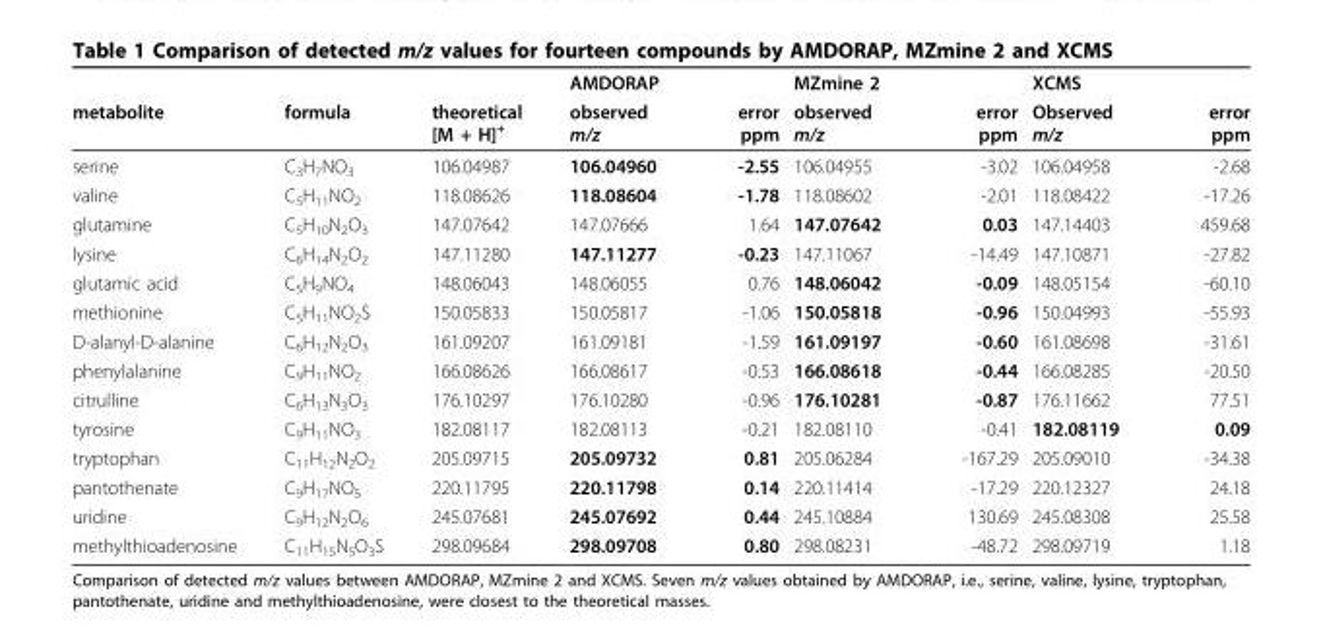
<table><thead><tr><td rowspan="2">metabolite</td><td rowspan="2">formula</td><td rowspan="2">theoretical [M + H]<sup>+</sup></td><td colspan="2">AMDORAP</td><td colspan="2">MZmine 2</td><td colspan="2">XCMS</td></tr><tr><td>observed m/z</td><td>error ppm</td><td>observed m/z</td><td>error ppm</td><td>Observed m/z</td><td>error ppm</td></tr></thead><tbody><tr><td>serine</td><td>C<sub>3</sub>H<sub>7</sub>NO<sub>3</sub></td><td>106.04987</td><td>106.04960</td><td>-2.55</td><td>106.04955</td><td>-3.02</td><td>106.04958</td><td>-2.68</td></tr><tr><td>valine</td><td>C<sub>5</sub>H<sub>11</sub>NO<sub>2</sub></td><td>118.08626</td><td>118.08604</td><td>-1.78</td><td>118.08602</td><td>-2.01</td><td>118.08422</td><td>-17.26</td></tr><tr><td>glutamine</td><td>C<sub>5</sub>H<sub>10</sub>N<sub>2</sub>O<sub>3</sub></td><td>147.07642</td><td>147.07666</td><td>1.64</td><td>147.07642</td><td>0.03</td><td>147.14403</td><td>459.68</td></tr><tr><td>lysine</td><td>C<sub>6</sub>H<sub>14</sub>N<sub>2</sub>O<sub>2</sub></td><td>147.11280</td><td>147.11277</td><td>-0.23</td><td>147.11067</td><td>-14.49</td><td>147.10871</td><td>-27.82</td></tr><tr><td>glutamic acid</td><td>C<sub>5</sub>H<sub>9</sub>NO<sub>4</sub></td><td>148.06043</td><td>148.06055</td><td>0.76</td><td>148.06042</td><td>-0.09</td><td>148.05154</td><td>-60.10</td></tr><tr><td>methionine</td><td>C<sub>5</sub>H<sub>11</sub>NO<sub>2</sub>S</td><td>150.05833</td><td>150.05817</td><td>-1.06</td><td>150.05818</td><td>-0.96</td><td>150.04993</td><td>-55.93</td></tr><tr><td>D-alanyl-D-alanine</td><td>C<sub>6</sub>H<sub>12</sub>N<sub>2</sub>O<sub>3</sub></td><td>161.09207</td><td>161.09181</td><td>-1.59</td><td>161.09197</td><td>-0.60</td><td>161.08698</td><td>-31.61</td></tr><tr><td>phenylalanine</td><td>C<sub>9</sub>H<sub>11</sub>NO<sub>2</sub></td><td>166.08626</td><td>166.08617</td><td>-0.53</td><td>166.08618</td><td>-0.44</td><td>166.08285</td><td>-20.50</td></tr><tr><td>citrulline</td><td>C<sub>6</sub>H<sub>13</sub>N<sub>3</sub>O<sub>3</sub></td><td>176.10297</td><td>176.10280</td><td>-0.96</td><td>176.10281</td><td>-0.87</td><td>176.11662</td><td>77.51</td></tr><tr><td>tyrosine</td><td>C<sub>9</sub>H<sub>11</sub>NO<sub>3</sub></td><td>182.08117</td><td>182.08113</td><td>-0.21</td><td>182.08110</td><td>-0.41</td><td>182.08119</td><td>0.09</td></tr><tr><td>tryptophan</td><td>C<sub>11</sub>H<sub>12</sub>N<sub>2</sub>O<sub>2</sub></td><td>205.09715</td><td>205.09732</td><td>0.81</td><td>205.06284</td><td>-167.29</td><td>205.09010</td><td>-34.38</td></tr><tr><td>pantothenate</td><td>C<sub>9</sub>H<sub>17</sub>NO<sub>5</sub></td><td>220.11795</td><td>220.11798</td><td>0.14</td><td>220.11414</td><td>-17.29</td><td>220.12327</td><td>24.18</td></tr><tr><td>uridine</td><td>C<sub>9</sub>H<sub>12</sub>N<sub>2</sub>O<sub>6</sub></td><td>245.07681</td><td>245.07692</td><td>0.44</td><td>245.10884</td><td>130.69</td><td>245.08308</td><td>25.58</td></tr><tr><td>methylthioadenosine</td><td>C<sub>11</sub>H<sub>15</sub>N<sub>5</sub>O<sub>3</sub>S</td><td>298.09684</td><td>298.09708</td><td>0.80</td><td>298.08231</td><td>-48.72</td><td>298.09719</td><td>1.18</td></tr></tbody></table>